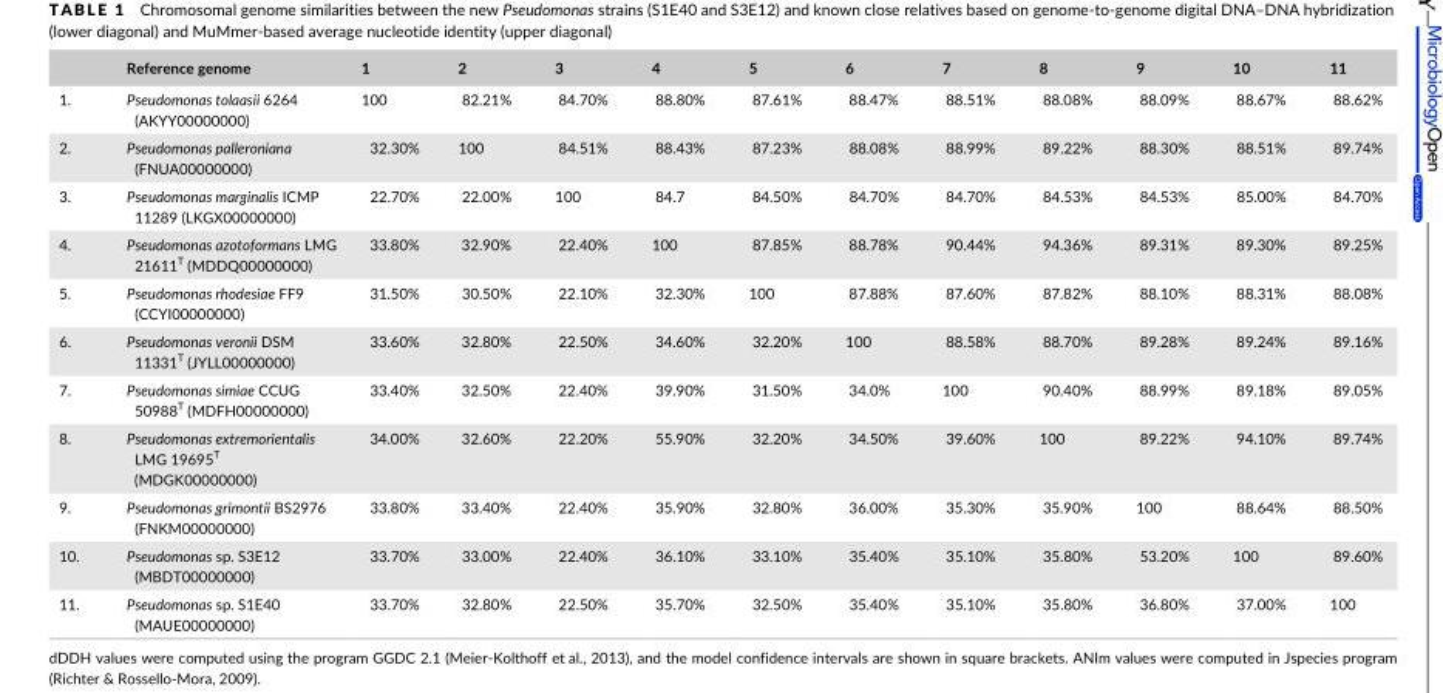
<table><thead><tr><td></td><td>Reference genome</td><td>1</td><td>2</td><td>3</td><td>4</td><td>5</td><td>6</td><td>7</td><td>8</td><td>9</td><td>10</td><td>11</td></tr></thead><tbody><tr><td>1.</td><td>Pseudomonas tolaasii 6264 (AKYY00000000)</td><td>100</td><td>82.21%</td><td>84.70%</td><td>88.80%</td><td>87.61%</td><td>88.47%</td><td>88.51%</td><td>88.08%</td><td>88.09%</td><td>88.67%</td><td>88.62%</td></tr><tr><td>2.</td><td>Pseudomonas palleroniana (FNUA00000000)</td><td>32.30%</td><td>100</td><td>84.51%</td><td>88.43%</td><td>87.23%</td><td>88.08%</td><td>88.99%</td><td>89.22%</td><td>88.30%</td><td>88.51%</td><td>89.74%</td></tr><tr><td>3.</td><td>Pseudomonas marginalis ICMP 11289 (LKGX00000000)</td><td>22.70%</td><td>22.00%</td><td>100</td><td>84.7</td><td>84.50%</td><td>84.70%</td><td>84.70%</td><td>84.53%</td><td>84.53%</td><td>85.00%</td><td>84.70%</td></tr><tr><td>4.</td><td>Pseudomonas azotoformans LMG 21611<sup>T</sup> (MDDQ00000000)</td><td>33.80%</td><td>32.90%</td><td>22.40%</td><td>100</td><td>87.85%</td><td>88.78%</td><td>90.44%</td><td>94.36%</td><td>89.31%</td><td>89.30%</td><td>89.25%</td></tr><tr><td>5.</td><td>Pseudomonas rhodesiae FF9 (CCYI00000000)</td><td>31.50%</td><td>30.50%</td><td>22.10%</td><td>32.30%</td><td>100</td><td>87.88%</td><td>87.60%</td><td>87.82%</td><td>88.10%</td><td>88.31%</td><td>88.08%</td></tr><tr><td>6.</td><td>Pseudomonas veronii DSM 11331<sup>T</sup> (JYLL00000000)</td><td>33.60%</td><td>32.80%</td><td>22.50%</td><td>34.60%</td><td>32.20%</td><td>100</td><td>88.58%</td><td>88.70%</td><td>89.28%</td><td>89.24%</td><td>89.16%</td></tr><tr><td>7.</td><td>Pseudomonas simiae CCUG 50988<sup>T</sup> (MDFH00000000)</td><td>33.40%</td><td>32.50%</td><td>22.40%</td><td>39.90%</td><td>31.50%</td><td>34.0%</td><td>100</td><td>90.40%</td><td>88.99%</td><td>89.18%</td><td>89.05%</td></tr><tr><td>8.</td><td>Pseudomonas extremorientalis LMG 19695<sup>T</sup> (MDGK00000000)</td><td>34.00%</td><td>32.60%</td><td>22.20%</td><td>55.90%</td><td>32.20%</td><td>34.50%</td><td>39.60%</td><td>100</td><td>89.22%</td><td>94.10%</td><td>89.74%</td></tr><tr><td>9.</td><td>Pseudomonas grimontii BS2976 (FNKM00000000)</td><td>33.80%</td><td>33.40%</td><td>22.40%</td><td>35.90%</td><td>32.80%</td><td>36.00%</td><td>35.30%</td><td>35.90%</td><td>100</td><td>88.64%</td><td>88.50%</td></tr><tr><td>10.</td><td>Pseudomonas sp. S3E12 (MBDT00000000)</td><td>33.70%</td><td>33.00%</td><td>22.40%</td><td>36.10%</td><td>33.10%</td><td>35.40%</td><td>35.10%</td><td>35.80%</td><td>53.20%</td><td>100</td><td>89.60%</td></tr><tr><td>11.</td><td>Pseudomonas sp. S1E40 (MAUE00000000)</td><td>33.70%</td><td>32.80%</td><td>22.50%</td><td>35.70%</td><td>32.50%</td><td>35.40%</td><td>35.10%</td><td>35.80%</td><td>36.80%</td><td>37.00%</td><td>100</td></tr></tbody></table>